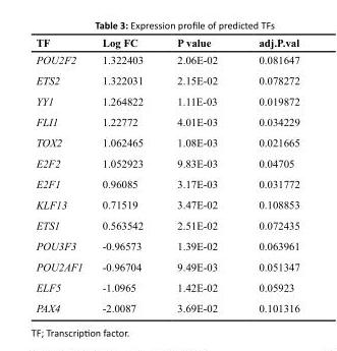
<table><thead><tr><td>TF</td><td>Log FC</td><td>P value</td><td>adj.P.val</td></tr></thead><tbody><tr><td>POU2F2</td><td>1.322403</td><td>2.06E-02</td><td>0.081647</td></tr><tr><td>ETS2</td><td>1.322031</td><td>2.15E-02</td><td>0.078272</td></tr><tr><td>YY1</td><td>1.264822</td><td>1.11E-03</td><td>0.019872</td></tr><tr><td>FLI1</td><td>1.22772</td><td>4.01E-03</td><td>0.034229</td></tr><tr><td>TOX2</td><td>1.062465</td><td>1.08E-03</td><td>0.021665</td></tr><tr><td>E2F2</td><td>1.052923</td><td>9.83E-03</td><td>0.04705</td></tr><tr><td>E2F1</td><td>0.96085</td><td>3.17E-03</td><td>0.031772</td></tr><tr><td>KLF13</td><td>0.71519</td><td>3.47E-02</td><td>0.108853</td></tr><tr><td>ETS1</td><td>0.563542</td><td>2.51E-02</td><td>0.072435</td></tr><tr><td>POU3F3</td><td>-0.96573</td><td>1.39E-02</td><td>0.063961</td></tr><tr><td>POU2AF1</td><td>-0.96704</td><td>9.49E-03</td><td>0.051347</td></tr><tr><td>ELF5</td><td>-1.0965</td><td>1.42E-02</td><td>0.05923</td></tr><tr><td>PAX4</td><td>-2.0087</td><td>3.69E-02</td><td>0.101316</td></tr></tbody></table>